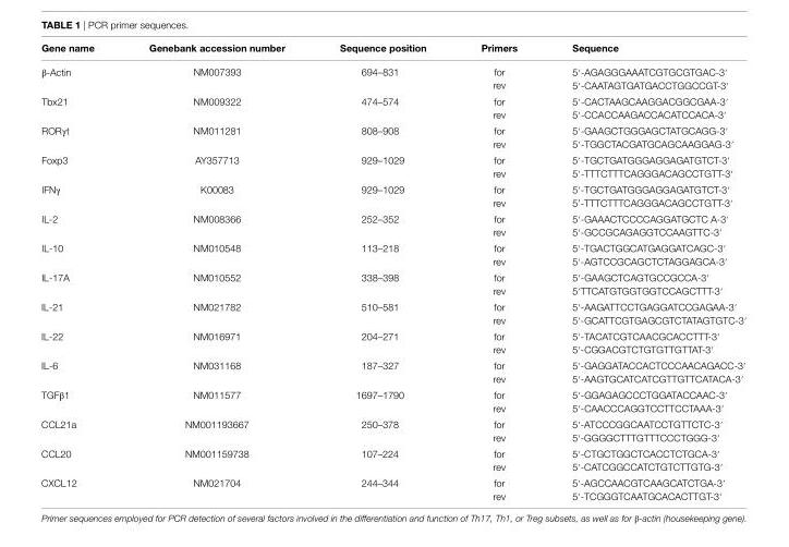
<table><thead><tr><td>gene name</td><td>genebank accession number</td><td>sequence position</td><td>Primers</td><td>sequence</td></tr></thead><tbody><tr><td>β-Actin</td><td>NM007393</td><td>694–831</td><td>for rev</td><td>5′-AGAGGGAAATCGTGCGTGAC-3′ 5′-CAATAGTGATGACCTGGCCGT-3′</td></tr><tr><td>Tbx21</td><td>NM009322</td><td>474–574</td><td>for rev</td><td>5′-CACTAAGCAAGGACGGCGAA-3′ 5′-CCACCAAGACCACATCCACA-3′</td></tr><tr><td>RORγt</td><td>NM011281</td><td>808–908</td><td>for rev</td><td>5′-GAAGCTGGGAGCTATGCAGG-3′ 5′-TGGCTACGATGCAGCAAGGAG-3′</td></tr><tr><td>Foxp3</td><td>AY357713</td><td>929–1029</td><td>for rev</td><td>5′-TGCTGATGGGAGGAGATGTCT-3′ 5′-TTTCTTTCAGGGACAGCCTGTT-3′</td></tr><tr><td>IFNγ</td><td>K00083</td><td>929–1029</td><td>for rev</td><td>5′-TGCTGATGGGAGGAGATGTCT-3′ 5’-TTTCTTTCAGGGACAGCCTGTT-3′</td></tr><tr><td>IL-2</td><td>NM008366</td><td>252–352</td><td>for rev</td><td>5′-GAAACTCCCCAGGATGCTC A-3′ 5′-GCCGCAGAGGTCCAAGTTC-3′</td></tr><tr><td>IL-10</td><td>NM010548</td><td>113–218</td><td>for rev</td><td>5′-TGACTGGCATGAGGATCAGC-3′ 5′-AGTCCGCAGCTCTAGGAGCA-3′</td></tr><tr><td>IL-17A</td><td>NM010552</td><td>338–398</td><td>for rev</td><td>5′-GAAGCTCAGTGCCGCCA-3′ 5′TTCATGTGGTGGTCCAGCTTT-3′</td></tr><tr><td>IL-21</td><td>NM021782</td><td>510–581</td><td>for rev</td><td>5′-AAGATTCCTGAGGATCCGAGAA-3′ 5′-GCATTCGTGAGCGTCTATAGTGTC-3′</td></tr><tr><td>IL-22</td><td>NM016971</td><td>204–271</td><td>for rev</td><td>5′-TACATCGTCAACGCACCTTT-3′ 5′-CGGACGTCTGTGTTGTTAT-3′</td></tr><tr><td>IL-6</td><td>NM031168</td><td>187–327</td><td>for rev</td><td>5′-GAGGATACCACTCCCAACAGACC-3′ 5′-AAGTGCATCATCGTTGTTCATACA-3′</td></tr><tr><td>TGFβ1</td><td>NM011577</td><td>1697–1790</td><td>for rev</td><td>5′-GGAGAGCCCTGGATACCAAC-3′ 5′-CAACCCAGGTCCTTCCTAAA-3′</td></tr><tr><td>CCL21a</td><td>NM001193667</td><td>250–378</td><td>for rev</td><td>5′-ATCCCGGCAATCCTGTTCTC-3′ 5′-GGGGCTTTGTTTCCCTGGG-3′</td></tr><tr><td>CCL20</td><td>NM001159738</td><td>107–224</td><td>for rev</td><td>5′-CTGCTGGCTCACCTCTGCA-3′ 5′-CATCGGCCATCTGTCTTGTG-3′</td></tr><tr><td>CXCL12</td><td>NM021704</td><td>244–344</td><td>for rev</td><td>5′-AGCCAACGTCAAGCATCTGA-3′ 5′-TCGGGTCAATGCACACTTGT-3′</td></tr></tbody></table>